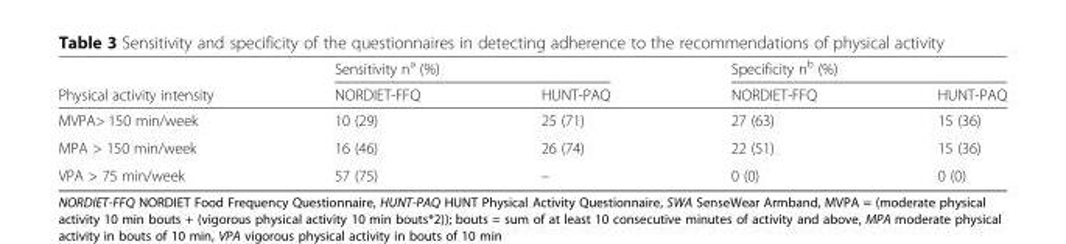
<table><thead><tr><td rowspan="2">Physical activity intensity</td><td colspan="2">Sensitivity n<sup>a</sup> (%)</td><td colspan="2">Specificity n<sup>b</sup> (%)</td></tr><tr><td>NORDIET-FFQ</td><td>HUNT-PAQ</td><td>NORDIET-FFQ</td><td>HUNT-PAQ</td></tr></thead><tbody><tr><td>MVPA&gt; 150 min/week</td><td>10 (29)</td><td>25 (71)</td><td>27 (63)</td><td>15 (36)</td></tr><tr><td>MPA &gt; 150 min/week</td><td>16 (46)</td><td>26 (74)</td><td>22 (51)</td><td>15 (36)</td></tr><tr><td>VPA &gt; 75 min/week</td><td>57 (75)</td><td>–</td><td>0 (0)</td><td>0 (0)</td></tr></tbody></table>